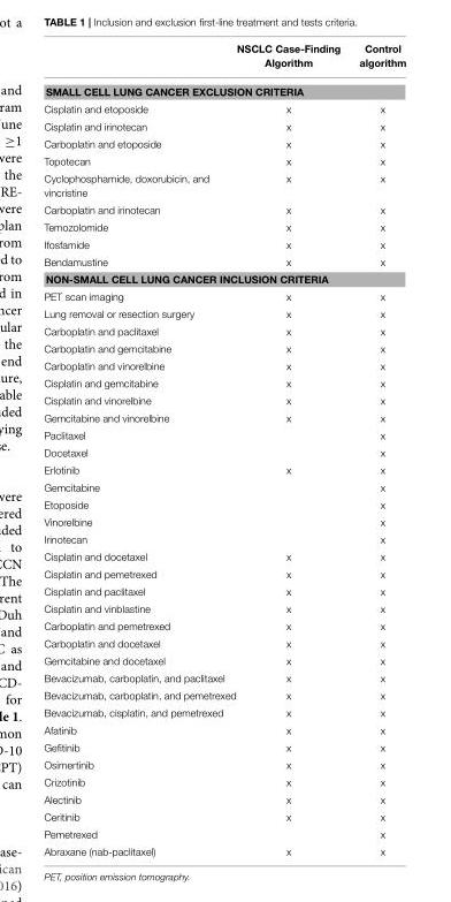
<table><thead><tr><td></td><td>NSCLC Case-Finding Algorithm</td><td>Control algorithm</td></tr></thead><tbody><tr><td colspan="3">SMALL CELL LUNG CANCER EXCLUSION CRITERIA</td></tr><tr><td>Cisplatin and etoposide</td><td>x</td><td>x</td></tr><tr><td>Cisplatin and irinotecan</td><td>x</td><td>x</td></tr><tr><td>Carboplatin and etoposide</td><td>x</td><td>x</td></tr><tr><td>Topotecan</td><td>x</td><td>x</td></tr><tr><td>Cyclophosphamide, doxorubicin, and vincristine</td><td>x</td><td>x</td></tr><tr><td>Carboplatin and irinotecan</td><td>x</td><td>x</td></tr><tr><td>Temozolomide</td><td>x</td><td>x</td></tr><tr><td>Ifosfamide</td><td>x</td><td>x</td></tr><tr><td>Bendamustine</td><td>x</td><td>x</td></tr><tr><td colspan="3">NON-SMALL CELL LUNG CANCER INCLUSION CRITERIA</td></tr><tr><td>PET scan imaging</td><td>x</td><td>x</td></tr><tr><td>Lung removal or resection surgery</td><td>x</td><td>x</td></tr><tr><td>Carboplatin and paclitaxel</td><td>x</td><td>x</td></tr><tr><td>Carboplatin and gemcitabine</td><td>x</td><td>x</td></tr><tr><td>Carboplatin and vinorelbine</td><td>x</td><td>x</td></tr><tr><td>Cisplatin and gemcitabine</td><td>x</td><td>x</td></tr><tr><td>Cisplatin and vinorelbine</td><td>x</td><td>x</td></tr><tr><td>Gemcitabine and vinorelbine</td><td>x</td><td>x</td></tr><tr><td>Paclitaxel</td><td></td><td>x</td></tr><tr><td>Docetaxel</td><td></td><td>x</td></tr><tr><td>Erlotinib</td><td>x</td><td>x</td></tr><tr><td>Gemcitabine</td><td></td><td>x</td></tr><tr><td>Etoposide</td><td></td><td>x</td></tr><tr><td>Vinorelbine</td><td></td><td>x</td></tr><tr><td>Irinotecan</td><td></td><td>x</td></tr><tr><td>Cisplatin and docetaxel</td><td>x</td><td>x</td></tr><tr><td>Cisplatin and pemetrexed</td><td>x</td><td>x</td></tr><tr><td>Cisplatin and paclitaxel</td><td>x</td><td>x</td></tr><tr><td>Cisplatin and vinblastine</td><td>x</td><td>x</td></tr><tr><td>Carboplatin and pemetrexed</td><td>x</td><td>x</td></tr><tr><td>Carboplatin and docetaxel</td><td>x</td><td>x</td></tr><tr><td>Gemcitabine and docetaxel</td><td>x</td><td>x</td></tr><tr><td>Bevacizumab, carboplatin, and paclitaxel</td><td>x</td><td>x</td></tr><tr><td>Bevacizumab, carboplatin, and pemetrexed</td><td>x</td><td>x</td></tr><tr><td>Bevacizumab, cisplatin, and pemetrexed</td><td>x</td><td>x</td></tr><tr><td>Afatinib</td><td>x</td><td>x</td></tr><tr><td>Gefitinib</td><td>x</td><td>x</td></tr><tr><td>Osimertinib</td><td>x</td><td>x</td></tr><tr><td>Crizotinib</td><td>x</td><td>x</td></tr><tr><td>Alectinib</td><td>x</td><td>x</td></tr><tr><td>Ceritinib</td><td>x</td><td>x</td></tr><tr><td>Pemetrexed</td><td></td><td>x</td></tr><tr><td>Abraxane (nab-paclitaxel)</td><td>x</td><td>x</td></tr></tbody></table>